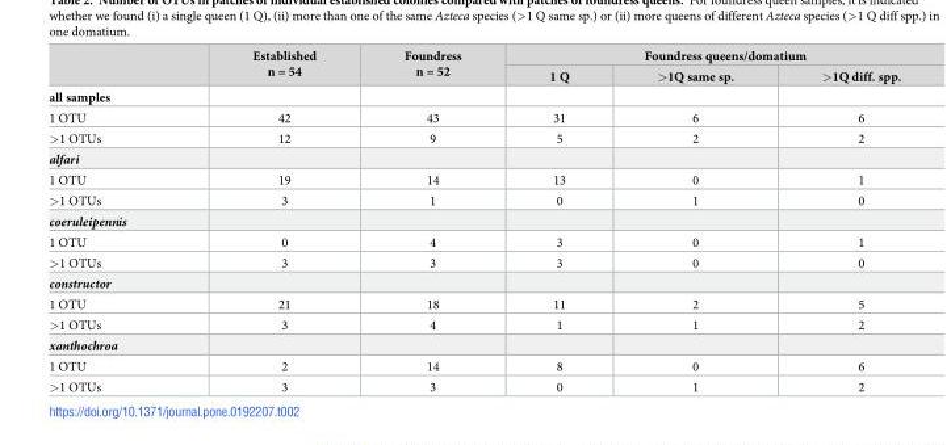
<table><thead><tr><td rowspan="2"></td><td rowspan="2">Established n = 54</td><td rowspan="2">Foundress n = 52</td><td colspan="3">Foundress queens/domatium</td></tr><tr><td>1 Q</td><td>&gt;1Q same sp.</td><td>&gt;1Q diff. spp.</td></tr></thead><tbody><tr><td colspan="6">all samples</td></tr><tr><td>1 OTU</td><td>42</td><td>43</td><td>31</td><td>6</td><td>6</td></tr><tr><td>&gt;1 OTUs</td><td>12</td><td>9</td><td>5</td><td>2</td><td>2</td></tr><tr><td colspan="6">alfari</td></tr><tr><td>1 OTU</td><td>19</td><td>14</td><td>13</td><td>0</td><td>1</td></tr><tr><td>&gt;1 OTUs</td><td>3</td><td>1</td><td>0</td><td>1</td><td>0</td></tr><tr><td colspan="6">coeruleipennis</td></tr><tr><td>1 OTU</td><td>0</td><td>4</td><td>3</td><td>0</td><td>1</td></tr><tr><td>&gt;1 OTUs</td><td>3</td><td>3</td><td>3</td><td>0</td><td>0</td></tr><tr><td colspan="6">constructor</td></tr><tr><td>1 OTU</td><td>21</td><td>18</td><td>11</td><td>2</td><td>5</td></tr><tr><td>&gt;1 OTUs</td><td>3</td><td>4</td><td>1</td><td>1</td><td>2</td></tr><tr><td colspan="6">xanthochroa</td></tr><tr><td>1 OTU</td><td>2</td><td>14</td><td>8</td><td>0</td><td>6</td></tr><tr><td>&gt;1 OTUs</td><td>3</td><td>3</td><td>0</td><td>1</td><td>2</td></tr></tbody></table>